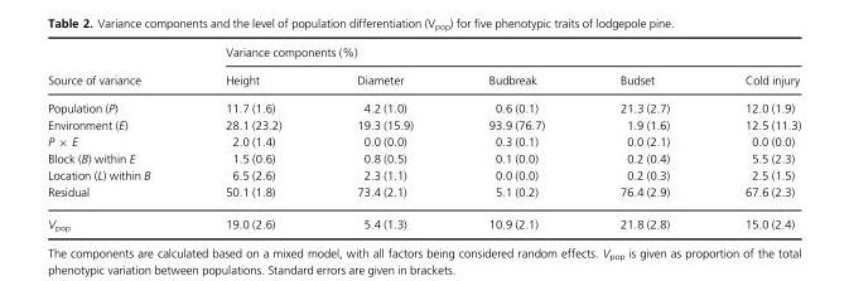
<table><thead><tr><td rowspan="2">Source of variance</td><td colspan="5">Variance components (%)</td></tr><tr><td>Height</td><td>Diameter</td><td>Budbreak</td><td>Budset</td><td>Cold injury</td></tr></thead><tbody><tr><td>Population (P)</td><td>11.7 (1.6)</td><td>4.2 (1.0)</td><td>0.6 (0.1)</td><td>21.3 (2.7)</td><td>12.0 (1.9)</td></tr><tr><td>Environment (E)</td><td>28.1 (23.2)</td><td>19.3 (15.9)</td><td>93.9 (76.7)</td><td>1.9 (1.6)</td><td>12.5 (11.3)</td></tr><tr><td>P × E</td><td>2.0 (1.4)</td><td>0.0 (0.0)</td><td>0.3 (0.1)</td><td>0.0 (2.1)</td><td>0.0 (0.0)</td></tr><tr><td>Block (B) within E</td><td>1.5 (0.6)</td><td>0.8 (0.5)</td><td>0.1 (0.0)</td><td>0.2 (0.4)</td><td>5.5 (2.3)</td></tr><tr><td>Location (L) within B</td><td>6.5 (2.6)</td><td>2.3 (1.1)</td><td>0.0 (0.0)</td><td>0.2 (0.3)</td><td>2.5 (1.5)</td></tr><tr><td>Residual</td><td>50.1 (1.8)</td><td>73.4 (2.1)</td><td>5.1 (0.2)</td><td>76.4 (2.9)</td><td>67.6 (2.3)</td></tr><tr><td>V<sub>pop</sub></td><td>19.0 (2.6)</td><td>5.4 (1.3)</td><td>10.9 (2.1)</td><td>21.8 (2.8)</td><td>15.0 (2.4)</td></tr></tbody></table>